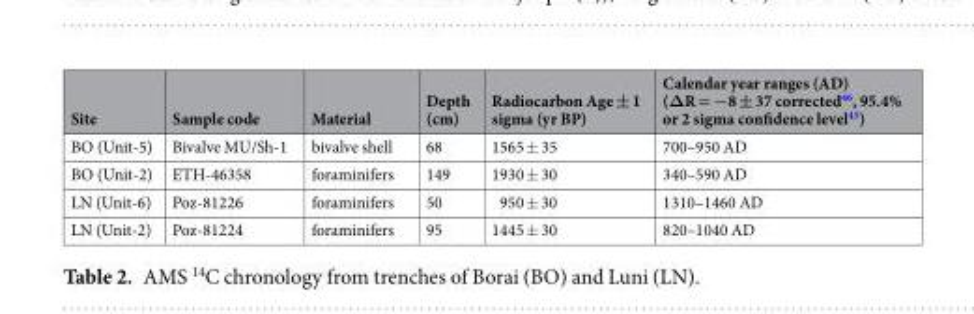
<table><thead><tr><td>Site</td><td>Sample code</td><td>Material</td><td>Depth (cm)</td><td>Radiocarbon Age ± 1 sigma (yr BP)</td><td>Calendar year ranges (AD) (ΔR = −8 ± 37 corrected<sup>46</sup>, 95.4% or 2 sigma confidence level<sup>45</sup>)</td></tr></thead><tbody><tr><td>BO (Unit-5)</td><td>Bivalve MU/Sh-1</td><td>bivalve shell</td><td>68</td><td>1565 ± 35</td><td>700–950 AD</td></tr><tr><td>BO (Unit-2)</td><td>ETH-46358</td><td>foraminifers</td><td>149</td><td>1930 ± 30</td><td>340–590 AD</td></tr><tr><td>LN (Unit-6)</td><td>Poz-81226</td><td>foraminifers</td><td>50</td><td>950 ± 30</td><td>1310–1460 AD</td></tr><tr><td>LN (Unit-2)</td><td>Poz-81224</td><td>foraminifers</td><td>95</td><td>1445 ± 30</td><td>820–1040 AD</td></tr></tbody></table>